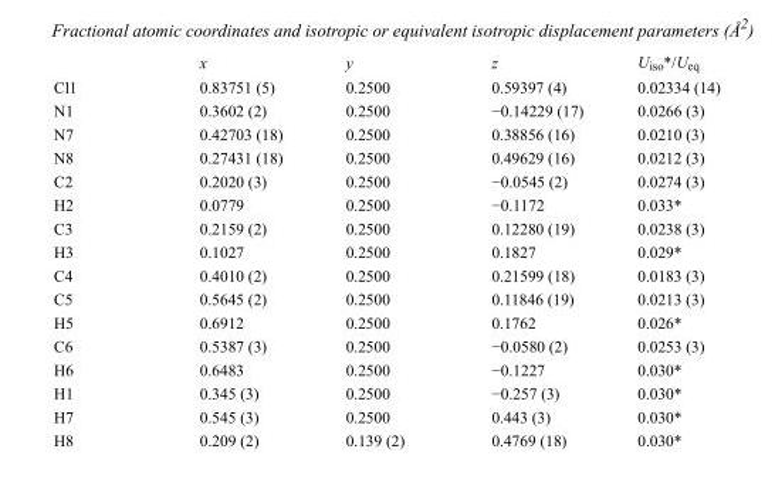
<table><thead><tr><td></td><td>x</td><td>y</td><td>z</td><td>U<sub>iso</sub>*/U<sub>eq</sub></td></tr></thead><tbody><tr><td>Cl1</td><td>0.83751 (5)</td><td>0.2500</td><td>0.59397 (4)</td><td>0.02334 (14)</td></tr><tr><td>N1</td><td>0.3602 (2)</td><td>0.2500</td><td>−0.14229 (17)</td><td>0.0266 (3)</td></tr><tr><td>N7</td><td>0.42703 (18)</td><td>0.2500</td><td>0.38856 (16)</td><td>0.0210 (3)</td></tr><tr><td>N8</td><td>0.27431 (18)</td><td>0.2500</td><td>0.49629 (16)</td><td>0.0212 (3)</td></tr><tr><td>C2</td><td>0.2020 (3)</td><td>0.2500</td><td>−0.0545 (2)</td><td>0.0274 (3)</td></tr><tr><td>H2</td><td>0.0779</td><td>0.2500</td><td>−0.1172</td><td>0.033*</td></tr><tr><td>C3</td><td>0.2159 (2)</td><td>0.2500</td><td>0.12280 (19)</td><td>0.0238 (3)</td></tr><tr><td>H3</td><td>0.1027</td><td>0.2500</td><td>0.1827</td><td>0.029*</td></tr><tr><td>C4</td><td>0.4010 (2)</td><td>0.2500</td><td>0.21599 (18)</td><td>0.0183 (3)</td></tr><tr><td>C5</td><td>0.5645 (2)</td><td>0.2500</td><td>0.11846 (19)</td><td>0.0213 (3)</td></tr><tr><td>H5</td><td>0.6912</td><td>0.2500</td><td>0.1762</td><td>0.026*</td></tr><tr><td>C6</td><td>0.5387 (3)</td><td>0.2500</td><td>−0.0580 (2)</td><td>0.0253 (3)</td></tr><tr><td>H6</td><td>0.6483</td><td>0.2500</td><td>−0.1227</td><td>0.030*</td></tr><tr><td>H1</td><td>0.345 (3)</td><td>0.2500</td><td>−0.257 (3)</td><td>0.030*</td></tr><tr><td>H7</td><td>0.545 (3)</td><td>0.2500</td><td>0.443 (3)</td><td>0.030*</td></tr><tr><td>H8</td><td>0.209 (2)</td><td>0.139 (2)</td><td>0.4769 (18)</td><td>0.030*</td></tr></tbody></table>